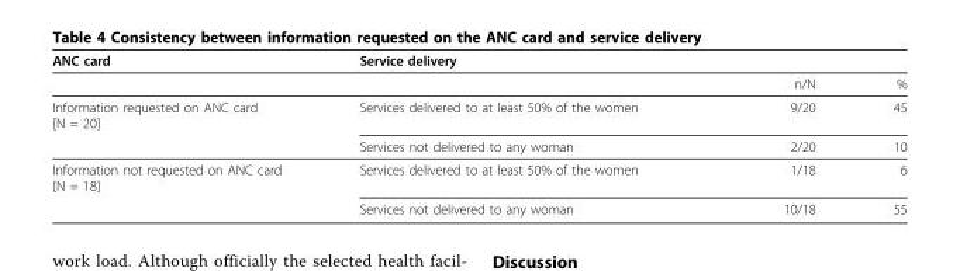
<table><thead><tr><td>ANC card</td><td>Service delivery</td><td></td><td></td></tr></thead><tbody><tr><td></td><td></td><td>n/N</td><td>%</td></tr><tr><td rowspan="2">Information requested on ANC card [N = 20]</td><td>Services delivered to at least 50% of the women</td><td>9/20</td><td>45</td></tr><tr><td>Services not delivered to any woman</td><td>2/20</td><td>10</td></tr><tr><td rowspan="2">Information not requested on ANC card [N = 18]</td><td>Services delivered to at least 50% of the women</td><td>1/18</td><td>6</td></tr><tr><td>Services not delivered to any woman</td><td>10/18</td><td>55</td></tr></tbody></table>